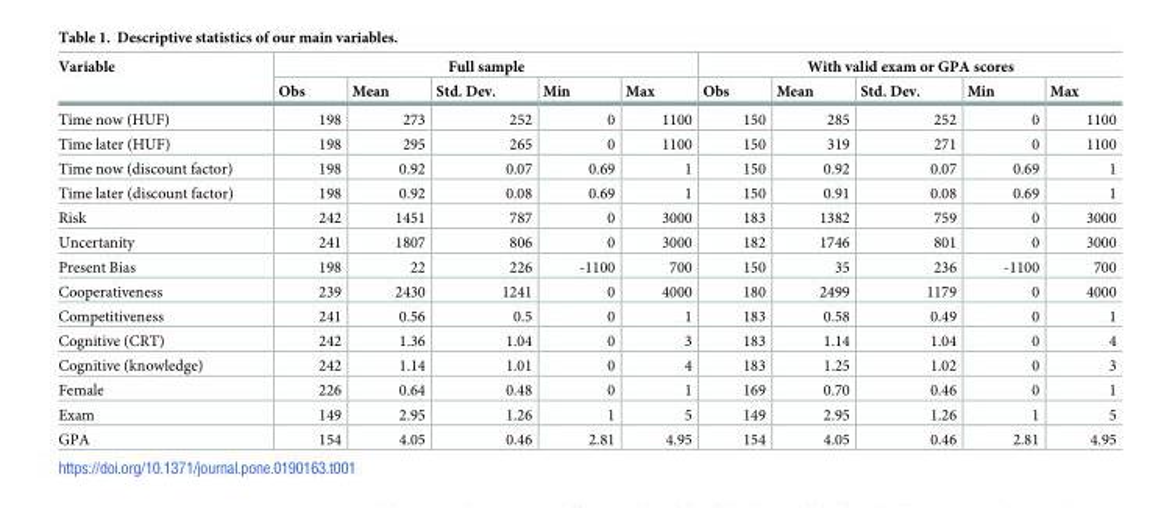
<table><thead><tr><td rowspan="2">Variable</td><td colspan="5">Full sample</td><td colspan="5">With valid exam or GPA scores</td></tr><tr><td>Obs</td><td>Mean</td><td>Std. Dev.</td><td>Min</td><td>Max</td><td>Obs</td><td>Mean</td><td>Std. Dev.</td><td>Min</td><td>Max</td></tr></thead><tbody><tr><td>Time now (HUF)</td><td>198</td><td>273</td><td>252</td><td>0</td><td>1100</td><td>150</td><td>285</td><td>252</td><td>0</td><td>1100</td></tr><tr><td>Time later (HUF)</td><td>198</td><td>295</td><td>265</td><td>0</td><td>1100</td><td>150</td><td>319</td><td>271</td><td>0</td><td>1100</td></tr><tr><td>Time now (discount factor)</td><td>198</td><td>0.92</td><td>0.07</td><td>0.69</td><td>1</td><td>150</td><td>0.92</td><td>0.07</td><td>0.69</td><td>1</td></tr><tr><td>Time later (discount factor)</td><td>198</td><td>0.92</td><td>0.08</td><td>0.69</td><td>1</td><td>150</td><td>0.91</td><td>0.08</td><td>0.69</td><td>1</td></tr><tr><td>Risk</td><td>242</td><td>1451</td><td>787</td><td>0</td><td>3000</td><td>183</td><td>1382</td><td>759</td><td>0</td><td>3000</td></tr><tr><td>Uncertanity</td><td>241</td><td>1807</td><td>806</td><td>0</td><td>3000</td><td>182</td><td>1746</td><td>801</td><td>0</td><td>3000</td></tr><tr><td>Present Bias</td><td>198</td><td>22</td><td>226</td><td>-1100</td><td>700</td><td>150</td><td>35</td><td>236</td><td>-1100</td><td>700</td></tr><tr><td>Cooperativeness</td><td>239</td><td>2430</td><td>1241</td><td>0</td><td>4000</td><td>180</td><td>2499</td><td>1179</td><td>0</td><td>4000</td></tr><tr><td>Competitiveness</td><td>241</td><td>0.56</td><td>0.5</td><td>0</td><td>1</td><td>183</td><td>0.58</td><td>0.49</td><td>0</td><td>1</td></tr><tr><td>Cognitive (CRT)</td><td>242</td><td>1.36</td><td>1.04</td><td>0</td><td>3</td><td>183</td><td>1.14</td><td>1.04</td><td>0</td><td>4</td></tr><tr><td>Cognitive (knowledge)</td><td>242</td><td>1.14</td><td>1.01</td><td>0</td><td>4</td><td>183</td><td>1.25</td><td>1.02</td><td>0</td><td>3</td></tr><tr><td>Female</td><td>226</td><td>0.64</td><td>0.48</td><td>0</td><td>1</td><td>169</td><td>0.70</td><td>0.46</td><td>0</td><td>1</td></tr><tr><td>Exam</td><td>149</td><td>2.95</td><td>1.26</td><td>1</td><td>5</td><td>149</td><td>2.95</td><td>1.26</td><td>1</td><td>5</td></tr><tr><td>GPA</td><td>154</td><td>4.05</td><td>0.46</td><td>2.81</td><td>4.95</td><td>154</td><td>4.05</td><td>0.46</td><td>2.81</td><td>4.95</td></tr></tbody></table>